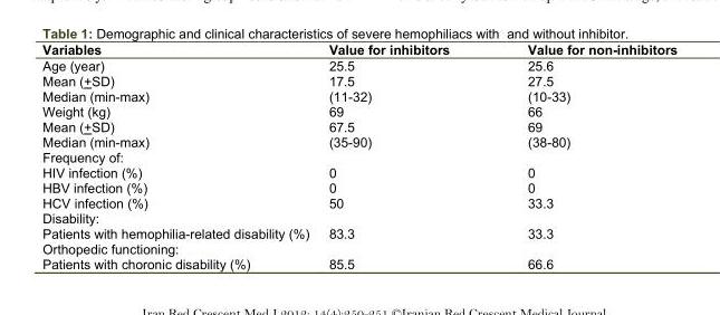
<table><thead><tr><td>Variables</td><td>Value for inhibitors</td><td>Value for non-inhibitors</td></tr></thead><tbody><tr><td>Age (year)</td><td>25.5</td><td>25.6</td></tr><tr><td>Mean (+SD)</td><td>17.5</td><td>27.5</td></tr><tr><td>Median (min-max)</td><td>(11-32)</td><td>(10-33)</td></tr><tr><td>Weight (kg)</td><td>69</td><td>66</td></tr><tr><td>Mean (+SD)</td><td>67.5</td><td>69</td></tr><tr><td>Median (min-max)</td><td>(35-90)</td><td>(38-80)</td></tr><tr><td colspan="3">Frequency of:</td></tr><tr><td>HIV infection (%)</td><td>0</td><td>0</td></tr><tr><td>HBV infection (%)</td><td>0</td><td>0</td></tr><tr><td>HCV infection (%)</td><td>50</td><td>33.3</td></tr><tr><td>Disability: Patients with hemophilia-related disability (%)</td><td>83.3</td><td>33.3</td></tr><tr><td>Orthopedic functioning: Patients with choronic disability (%)</td><td>85.5</td><td>66.6</td></tr></tbody></table>